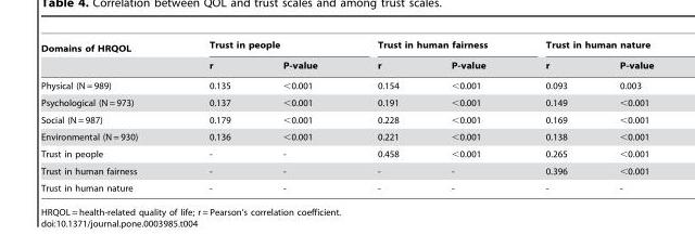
<table><thead><tr><td rowspan="2">Domains of HRQOL</td><td colspan="2">Trust in people</td><td colspan="2">Trust in human fairness</td><td colspan="2">Trust in human nature</td></tr><tr><td>r</td><td>P-value</td><td>r</td><td>P-value</td><td>r</td><td>P-value</td></tr></thead><tbody><tr><td>Physical (N = 989)</td><td>0.135</td><td>&lt;0.001</td><td>0.154</td><td>&lt;0.001</td><td>0.093</td><td>0.003</td></tr><tr><td>Psychological (N = 973)</td><td>0.137</td><td>&lt;0.001</td><td>0.191</td><td>&lt;0.001</td><td>0.149</td><td>&lt;0.001</td></tr><tr><td>Social (N = 987)</td><td>0.179</td><td>&lt;0.001</td><td>0.228</td><td>&lt;0.001</td><td>0.169</td><td>&lt;0.001</td></tr><tr><td>Environmental (N = 930)</td><td>0.136</td><td>&lt;0.001</td><td>0.221</td><td>&lt;0.001</td><td>0.138</td><td>&lt;0.001</td></tr><tr><td>Trust in people</td><td>-</td><td>-</td><td>0.458</td><td>&lt;0.001</td><td>0.265</td><td>&lt;0.001</td></tr><tr><td>Trust in human fairness</td><td>-</td><td>-</td><td>-</td><td>-</td><td>0.396</td><td>&lt;0.001</td></tr><tr><td>Trust in human nature</td><td>-</td><td>-</td><td>-</td><td>-</td><td>-</td><td>-</td></tr></tbody></table>